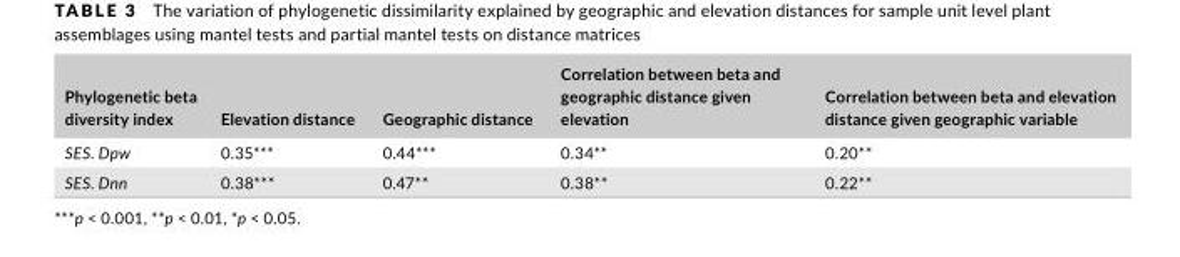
<table><thead><tr><td>Phylogenetic beta diversity index</td><td>Elevation distance</td><td>Geographic distance</td><td>Correlation between beta and geographic distance given elevation</td><td>Correlation between beta and elevation distance given geographic variable</td></tr></thead><tbody><tr><td>SES. Dpw</td><td>0.35***</td><td>0.44***</td><td>0.34**</td><td>0.20**</td></tr><tr><td>SES. Dnn</td><td>0.38***</td><td>0.47**</td><td>0.38**</td><td>0.22**</td></tr></tbody></table>